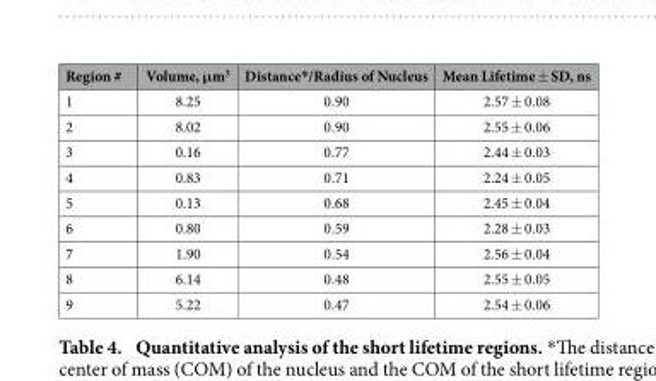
<table><thead><tr><td>Region #</td><td>Volume, μm<sup>3</sup></td><td>Distance*/Radius of Nucleus</td><td>Mean Lifetime ± SD, ns</td></tr></thead><tbody><tr><td>1</td><td>8.25</td><td>0.90</td><td>2.57 ± 0.08</td></tr><tr><td>2</td><td>8.02</td><td>0.90</td><td>2.55 ± 0.06</td></tr><tr><td>3</td><td>0.16</td><td>0.77</td><td>2.44 ± 0.03</td></tr><tr><td>4</td><td>0.83</td><td>0.71</td><td>2.24 ± 0.05</td></tr><tr><td>5</td><td>0.13</td><td>0.68</td><td>2.45 ± 0.04</td></tr><tr><td>6</td><td>0.80</td><td>0.59</td><td>2.28 ± 0.03</td></tr><tr><td>7</td><td>1.90</td><td>0.54</td><td>2.56 ± 0.04</td></tr><tr><td>8</td><td>6.14</td><td>0.48</td><td>2.55 ± 0.05</td></tr><tr><td>9</td><td>5.22</td><td>0.47</td><td>2.54 ± 0.06</td></tr></tbody></table>